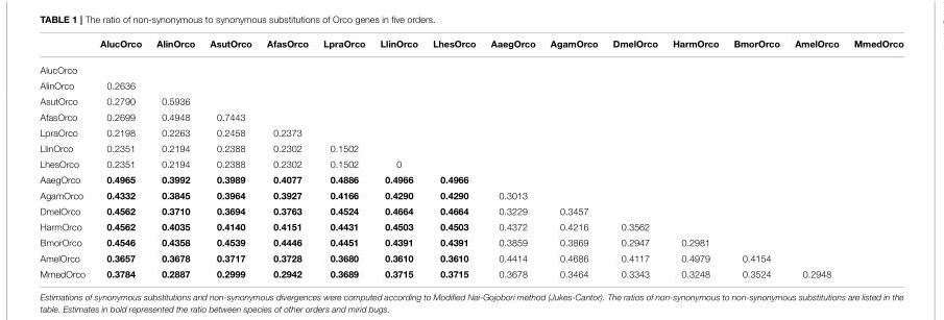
<table><thead><tr><td></td><td>AlucOrco</td><td>AlinOrco</td><td>AsutOrco</td><td>AfasOrco</td><td>LpraOrco</td><td>LlinOrco</td><td>LhesOrco</td><td>AaegOrco</td><td>AgamOrco</td><td>DmelOrco</td><td>HarmOrco</td><td>BmorOrco</td><td>AmelOrco</td><td>MmedOrco</td></tr></thead><tbody><tr><td colspan="15">AlucOrco</td></tr><tr><td>AlinOrco</td><td>0.2636</td><td></td><td></td><td></td><td></td><td></td><td></td><td></td><td></td><td></td><td></td><td></td><td></td><td></td></tr><tr><td>AsutOrco</td><td>0.2790</td><td>0.5936</td><td></td><td></td><td></td><td></td><td></td><td></td><td></td><td></td><td></td><td></td><td></td><td></td></tr><tr><td>AfasOrco</td><td>0.2699</td><td>0.4948</td><td>0.7443</td><td></td><td></td><td></td><td></td><td></td><td></td><td></td><td></td><td></td><td></td><td></td></tr><tr><td>LpraOrco</td><td>0.2198</td><td>0.2263</td><td>0.2458</td><td>0.2373</td><td></td><td></td><td></td><td></td><td></td><td></td><td></td><td></td><td></td><td></td></tr><tr><td>LlinOrco</td><td>0.2351</td><td>0.2194</td><td>0.2388</td><td>0.2302</td><td>0.1502</td><td></td><td></td><td></td><td></td><td></td><td></td><td></td><td></td><td></td></tr><tr><td>LhesOrco</td><td>0.2351</td><td>0.2194</td><td>0.2388</td><td>0.2302</td><td>0.1502</td><td>0</td><td></td><td></td><td></td><td></td><td></td><td></td><td></td><td></td></tr><tr><td>AaegOrco</td><td>0.4965</td><td>0.3992</td><td>0.3989</td><td>0.4077</td><td>0.4886</td><td>0.4966</td><td>0.4966</td><td></td><td></td><td></td><td></td><td></td><td></td><td></td></tr><tr><td>AgamOrco</td><td>0.4332</td><td>0.3845</td><td>0.3964</td><td>0.3927</td><td>0.4166</td><td>0.4290</td><td>0.4290</td><td>0.3013</td><td></td><td></td><td></td><td></td><td></td><td></td></tr><tr><td>DmelOrco</td><td>0.4562</td><td>0.3710</td><td>0.3694</td><td>0.3763</td><td>0.4524</td><td>0.4664</td><td>0.4664</td><td>0.3229</td><td>0.3457</td><td></td><td></td><td></td><td></td><td></td></tr><tr><td>HarmOrco</td><td>0.4562</td><td>0.4035</td><td>0.4140</td><td>0.4151</td><td>0.4431</td><td>0.4503</td><td>0.4503</td><td>0.4372</td><td>0.4216</td><td>0.3562</td><td></td><td></td><td></td><td></td></tr><tr><td>BmorOrco</td><td>0.4546</td><td>0.4358</td><td>0.4539</td><td>0.4446</td><td>0.4451</td><td>0.4391</td><td>0.4391</td><td>0.3859</td><td>0.3869</td><td>0.2947</td><td>0.2981</td><td></td><td></td><td></td></tr><tr><td>AmelOrco</td><td>0.3657</td><td>0.3678</td><td>0.3717</td><td>0.3728</td><td>0.3680</td><td>0.3610</td><td>0.3610</td><td>0.4414</td><td>0.4686</td><td>0.4117</td><td>0.4979</td><td>0.4154</td><td></td><td></td></tr><tr><td>MmedOrco</td><td>0.3784</td><td>0.2887</td><td>0.2999</td><td>0.2942</td><td>0.3689</td><td>0.3715</td><td>0.3715</td><td>0.3678</td><td>0.3464</td><td>0.3343</td><td>0.3248</td><td>0.3524</td><td>0.2948</td><td></td></tr></tbody></table>